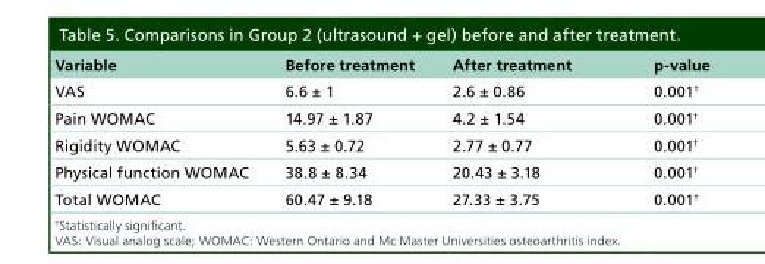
<table><thead><tr><td>Variable</td><td>Before treatment</td><td>After treatment</td><td>p-value</td></tr></thead><tbody><tr><td>VAS</td><td>6.6 ± 1</td><td>2.6 ± 0.86</td><td>0.001<sup>†</sup></td></tr><tr><td>Pain WOMAC</td><td>14.97 ± 1.87</td><td>4.2 ± 1.54</td><td>0.001<sup>†</sup></td></tr><tr><td>Rigidity WOMAC</td><td>5.63 ± 0.72</td><td>2.77 ± 0.77</td><td>0.001<sup>†</sup></td></tr><tr><td>Physical function WOMAC</td><td>38.8 ± 8.34</td><td>20.43 ± 3.18</td><td>0.001<sup>†</sup></td></tr><tr><td>Total WOMAC</td><td>60.47 ± 9.18</td><td>27.33 ± 3.75</td><td>0.001<sup>†</sup></td></tr></tbody></table>